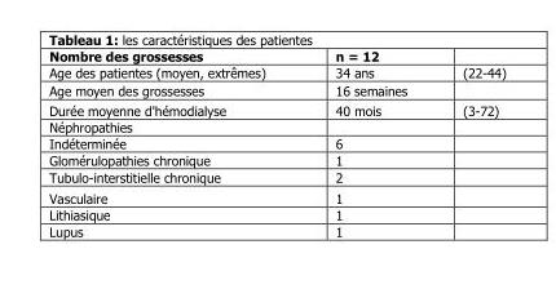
<table><thead><tr><td>Nombre des grossesses</td><td>n = 12</td><td></td></tr></thead><tbody><tr><td>Age des patientes (moyen, extrêmes)</td><td>34 ans</td><td>(22-44)</td></tr><tr><td>Age moyen des grossesses</td><td>16 semaines</td><td></td></tr><tr><td>Durée moyenne d&#x27;hémodialyse</td><td>40 mois</td><td>(3-72)</td></tr><tr><td colspan="3">Néphropathies</td></tr><tr><td>Indéterminée</td><td>6</td><td></td></tr><tr><td>Glomérulopathies chronique</td><td>1</td><td></td></tr><tr><td>Tubulo-interstitielle chronique</td><td>2</td><td></td></tr><tr><td>Vasculaire</td><td>1</td><td></td></tr><tr><td>Lithiasique</td><td>1</td><td></td></tr><tr><td>Lupus</td><td>1</td><td></td></tr></tbody></table>